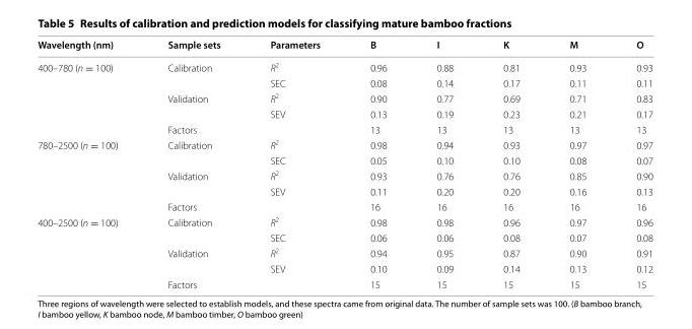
<table><thead><tr><td>Wavelength (nm)</td><td>Sample sets</td><td>Parameters</td><td>B</td><td>I</td><td>K</td><td>M</td><td>O</td></tr></thead><tbody><tr><td rowspan="5">400–780 (n = 100)</td><td rowspan="2">Calibration</td><td>R<sup>2</sup></td><td>0.96</td><td>0.88</td><td>0.81</td><td>0.93</td><td>0.93</td></tr><tr><td>SEC</td><td>0.08</td><td>0.14</td><td>0.17</td><td>0.11</td><td>0.11</td></tr><tr><td rowspan="2">Validation</td><td>R<sup>2</sup></td><td>0.90</td><td>0.77</td><td>0.69</td><td>0.71</td><td>0.83</td></tr><tr><td>SEV</td><td>0.13</td><td>0.19</td><td>0.23</td><td>0.21</td><td>0.17</td></tr><tr><td colspan="2">Factors</td><td>13</td><td>13</td><td>13</td><td>13</td><td>13</td></tr><tr><td rowspan="5">780–2500 (n = 100)</td><td rowspan="2">Calibration</td><td>R<sup>2</sup></td><td>0.98</td><td>0.94</td><td>0.93</td><td>0.97</td><td>0.97</td></tr><tr><td>SEC</td><td>0.05</td><td>0.10</td><td>0.10</td><td>0.08</td><td>0.07</td></tr><tr><td rowspan="2">Validation</td><td>R<sup>2</sup></td><td>0.93</td><td>0.76</td><td>0.76</td><td>0.85</td><td>0.90</td></tr><tr><td>SEV</td><td>0.11</td><td>0.20</td><td>0.20</td><td>0.16</td><td>0.13</td></tr><tr><td colspan="2">Factors</td><td>16</td><td>16</td><td>16</td><td>16</td><td>16</td></tr><tr><td rowspan="5">400–2500 (n = 100)</td><td rowspan="2">Calibration</td><td>R<sup>2</sup></td><td>0.98</td><td>0.98</td><td>0.96</td><td>0.97</td><td>0.96</td></tr><tr><td>SEC</td><td>0.06</td><td>0.06</td><td>0.08</td><td>0.07</td><td>0.08</td></tr><tr><td rowspan="2">Validation</td><td>R<sup>2</sup></td><td>0.94</td><td>0.95</td><td>0.87</td><td>0.90</td><td>0.91</td></tr><tr><td>SEV</td><td>0.10</td><td>0.09</td><td>0.14</td><td>0.13</td><td>0.12</td></tr><tr><td colspan="2">Factors</td><td>15</td><td>15</td><td>15</td><td>15</td><td>15</td></tr></tbody></table>